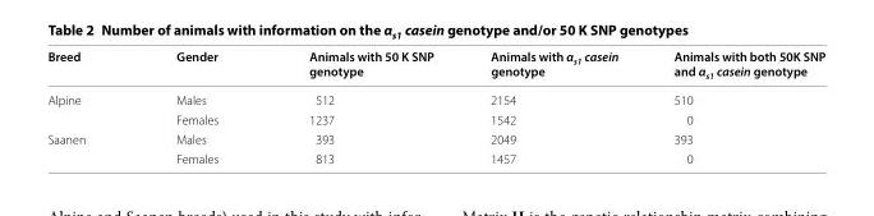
<table><thead><tr><td>Breed</td><td>Gender</td><td>Animals with 50 K SNP genotype</td><td>Animals with α<sub>s1</sub> casein genotype</td><td>Animals with both 50K SNP and α<sub>s1</sub> casein genotype</td></tr></thead><tbody><tr><td rowspan="2">Alpine</td><td>Males</td><td>512</td><td>2154</td><td>510</td></tr><tr><td>Females</td><td>1237</td><td>1542</td><td>0</td></tr><tr><td rowspan="2">Saanen</td><td>Males</td><td>393</td><td>2049</td><td>393</td></tr><tr><td>Females</td><td>813</td><td>1457</td><td>0</td></tr></tbody></table>